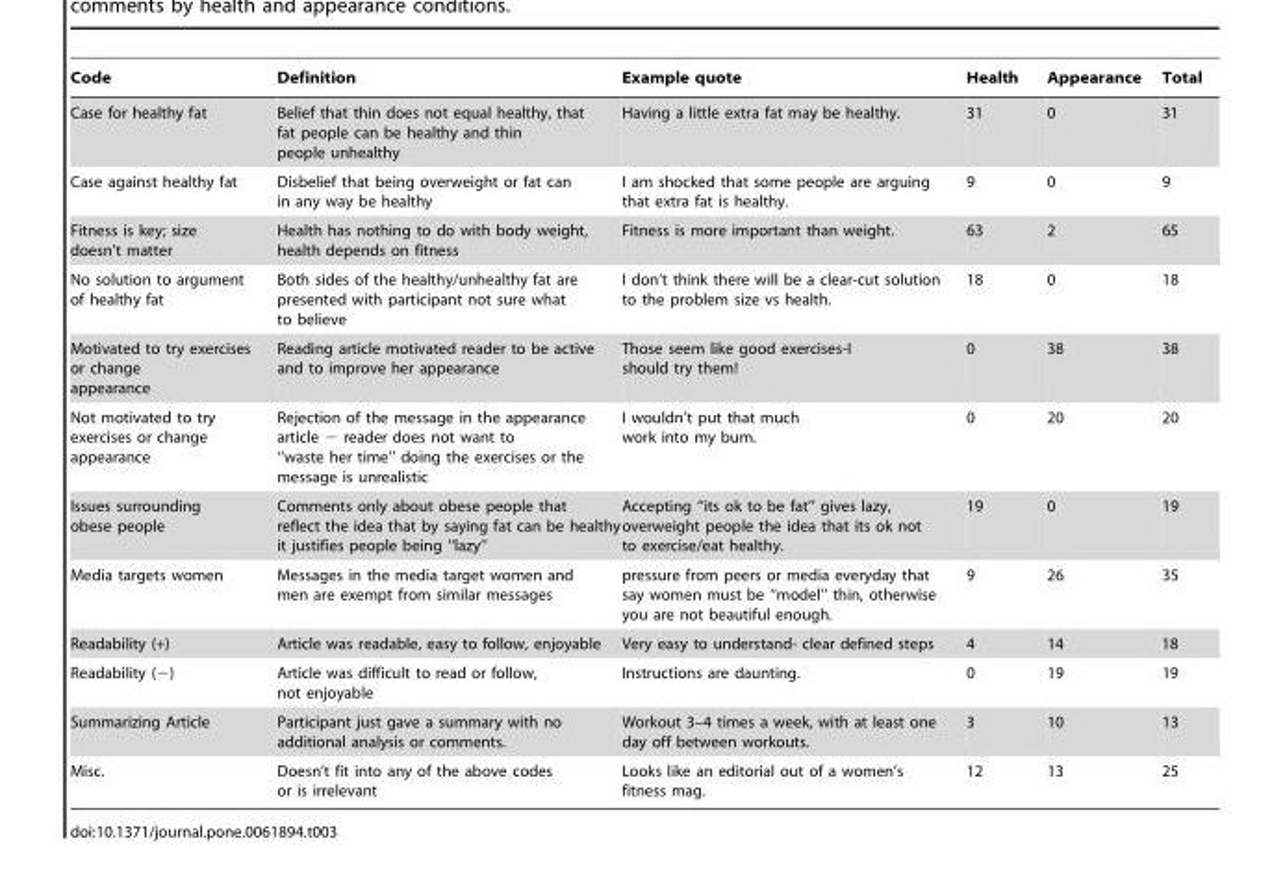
<table><thead><tr><td>Code</td><td>Definition</td><td>Example quote</td><td>Health</td><td>Appearance</td><td>Total</td></tr></thead><tbody><tr><td>Case for healthy fat</td><td>Belief that thin does not equal healthy, that fat people can be healthy and thin people unhealthy</td><td>Having a little extra fat may be healthy.</td><td>31</td><td>0</td><td>31</td></tr><tr><td>Case against healthy fat</td><td>Disbelief that being overweight or fat can in any way be healthy</td><td>I am shocked that some people are arguing that extra fat is healthy.</td><td>9</td><td>0</td><td>9</td></tr><tr><td>Fitness is key; size doesn’t matter</td><td>Health has nothing to do with body weight, health depends on fitness</td><td>Fitness is more important than weight.</td><td>63</td><td>2</td><td>65</td></tr><tr><td>No solution to argument of healthy fat</td><td>Both sides of the healthy/unhealthy fat are presented with participant not sure what to believe</td><td>I don’t think there will be a clear-cut solution to the problem size vs health.</td><td>18</td><td>0</td><td>18</td></tr><tr><td>Motivated to try exercises or change appearance</td><td>Reading article motivated reader to be active and to improve her appearance</td><td>Those seem like good exercises-I should try them!</td><td>0</td><td>38</td><td>38</td></tr><tr><td>Not motivated to try exercises or change appearance</td><td>Rejection of the message in the appearance article 2 reader does not want to ‘‘waste her time’’ doing the exercises or the message is unrealistic</td><td>I wouldn’t put that much work into my bum.</td><td>0</td><td>20</td><td>20</td></tr><tr><td>Issues surrounding obese people</td><td>Comments only about obese people that reflect the idea that by saying fat can be healthy it justifies people being ‘‘lazy’’</td><td>Accepting ‘‘its ok to be fat’’ gives lazy, overweight people the idea that its ok not to exercise/eat healthy.</td><td>19</td><td>0</td><td>19</td></tr><tr><td>Media targets women</td><td>Messages in the media target women and men are exempt from similar messages</td><td>pressure from peers or media everyday that say women must be ‘‘model’’ thin, otherwise you are not beautiful enough.</td><td>9</td><td>26</td><td>35</td></tr><tr><td>Readability (+)</td><td>Article was readable, easy to follow, enjoyable</td><td>Very easy to understand- clear defined steps</td><td>4</td><td>14</td><td>18</td></tr><tr><td>Readability (−)</td><td>Article was difficult to read or follow, not enjoyable</td><td>Instructions are daunting.</td><td>0</td><td>19</td><td>19</td></tr><tr><td>Summarizing Article</td><td>Participant just gave a summary with no additional analysis or comments.</td><td>Workout 3–4 times a week, with at least one day off between workouts.</td><td>3</td><td>10</td><td>13</td></tr><tr><td>Misc.</td><td>Doesn’t fit into any of the above codes or is irrelevant</td><td>Looks like an editorial out of a women’s fitness mag.</td><td>12</td><td>13</td><td>25</td></tr></tbody></table>